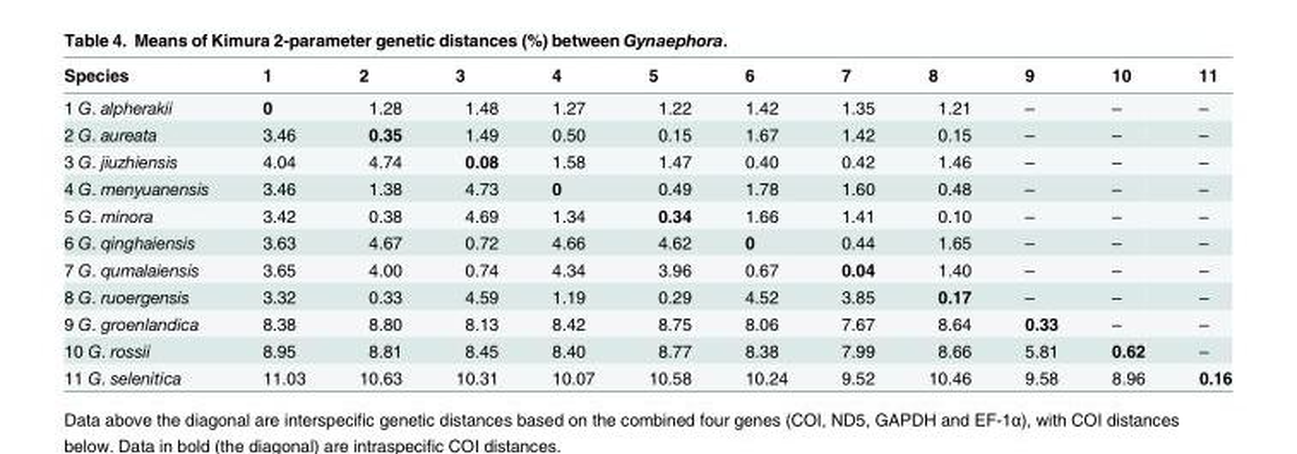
<table><thead><tr><td>Species</td><td>1</td><td>2</td><td>3</td><td>4</td><td>5</td><td>6</td><td>7</td><td>8</td><td>9</td><td>10</td><td>11</td></tr></thead><tbody><tr><td>1 G. alpherakii</td><td>0</td><td>1.28</td><td>1.48</td><td>1.27</td><td>1.22</td><td>1.42</td><td>1.35</td><td>1.21</td><td>–</td><td>–</td><td>–</td></tr><tr><td>2 G. aureata</td><td>3.46</td><td>0.35</td><td>1.49</td><td>0.50</td><td>0.15</td><td>1.67</td><td>1.42</td><td>0.15</td><td>–</td><td>–</td><td>–</td></tr><tr><td>3 G. jiuzhiensis</td><td>4.04</td><td>4.74</td><td>0.08</td><td>1.58</td><td>1.47</td><td>0.40</td><td>0.42</td><td>1.46</td><td>–</td><td>–</td><td>–</td></tr><tr><td>4 G. menyuanensis</td><td>3.46</td><td>1.38</td><td>4.73</td><td>0</td><td>0.49</td><td>1.78</td><td>1.60</td><td>0.48</td><td>–</td><td>–</td><td>–</td></tr><tr><td>5 G. minora</td><td>3.42</td><td>0.38</td><td>4.69</td><td>1.34</td><td>0.34</td><td>1.66</td><td>1.41</td><td>0.10</td><td>–</td><td>–</td><td>–</td></tr><tr><td>6 G. qinghaiensis</td><td>3.63</td><td>4.67</td><td>0.72</td><td>4.66</td><td>4.62</td><td>0</td><td>0.44</td><td>1.65</td><td>–</td><td>–</td><td>–</td></tr><tr><td>7 G. qumalaiensis</td><td>3.65</td><td>4.00</td><td>0.74</td><td>4.34</td><td>3.96</td><td>0.67</td><td>0.04</td><td>1.40</td><td>–</td><td>–</td><td>–</td></tr><tr><td>8 G. ruoergensis</td><td>3.32</td><td>0.33</td><td>4.59</td><td>1.19</td><td>0.29</td><td>4.52</td><td>3.85</td><td>0.17</td><td>–</td><td>–</td><td>–</td></tr><tr><td>9 G. groenlandica</td><td>8.38</td><td>8.80</td><td>8.13</td><td>8.42</td><td>8.75</td><td>8.06</td><td>7.67</td><td>8.64</td><td>0.33</td><td>–</td><td>–</td></tr><tr><td>10 G. rossii</td><td>8.95</td><td>8.81</td><td>8.45</td><td>8.40</td><td>8.77</td><td>8.38</td><td>7.99</td><td>8.66</td><td>5.81</td><td>0.62</td><td>–</td></tr><tr><td>11 G. selenitica</td><td>11.03</td><td>10.63</td><td>10.31</td><td>10.07</td><td>10.58</td><td>10.24</td><td>9.52</td><td>10.46</td><td>9.58</td><td>8.96</td><td>0.16</td></tr></tbody></table>